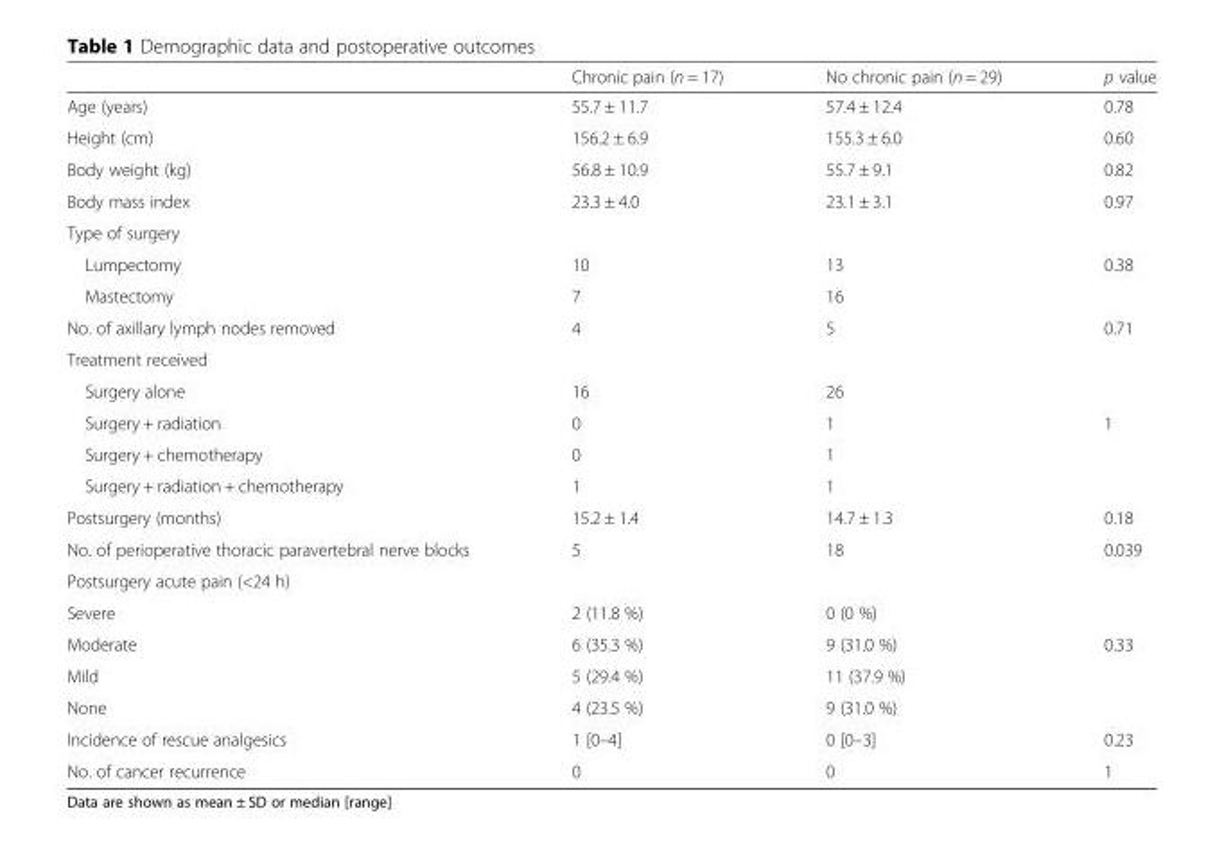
<table><thead><tr><td></td><td>Chronic pain (n = 17)</td><td>No chronic pain (n = 29)</td><td>p value</td></tr></thead><tbody><tr><td>Age (years)</td><td>55.7 ± 11.7</td><td>57.4 ± 12.4</td><td>0.78</td></tr><tr><td>Height (cm)</td><td>156.2 ± 6.9</td><td>155.3 ± 6.0</td><td>0.60</td></tr><tr><td>Body weight (kg)</td><td>56.8 ± 10.9</td><td>55.7 ± 9.1</td><td>0.82</td></tr><tr><td>Body mass index</td><td>23.3 ± 4.0</td><td>23.1 ± 3.1</td><td>0.97</td></tr><tr><td colspan="4">Type of surgery</td></tr><tr><td>Lumpectomy</td><td>10</td><td>13</td><td>0.38</td></tr><tr><td>Mastectomy</td><td>7</td><td>16</td><td></td></tr><tr><td>No. of axillary lymph nodes removed</td><td>4</td><td>5</td><td>0.71</td></tr><tr><td colspan="4">Treatment received</td></tr><tr><td>Surgery alone</td><td>16</td><td>26</td><td></td></tr><tr><td>Surgery + radiation</td><td>0</td><td>1</td><td>1</td></tr><tr><td>Surgery + chemotherapy</td><td>0</td><td>1</td><td></td></tr><tr><td>Surgery + radiation + chemotherapy</td><td>1</td><td>1</td><td></td></tr><tr><td>Postsurgery (months)</td><td>15.2 ± 1.4</td><td>14.7 ± 1.3</td><td>0.18</td></tr><tr><td>No. of perioperative thoracic paravertebral nerve blocks</td><td>5</td><td>18</td><td>0.039</td></tr><tr><td colspan="4">Postsurgery acute pain (&lt;24 h)</td></tr><tr><td>Severe</td><td>2 (11.8 %)</td><td>0 (0 %)</td><td></td></tr><tr><td>Moderate</td><td>6 (35.3 %)</td><td>9 (31.0 %)</td><td>0.33</td></tr><tr><td>Mild</td><td>5 (29.4 %)</td><td>11 (37.9 %)</td><td></td></tr><tr><td>None</td><td>4 (23.5 %)</td><td>9 (31.0 %)</td><td></td></tr><tr><td>Incidence of rescue analgesics</td><td>1 [0–4]</td><td>0 [0–3]</td><td>0.23</td></tr><tr><td>No. of cancer recurrence</td><td>0</td><td>0</td><td>1</td></tr></tbody></table>